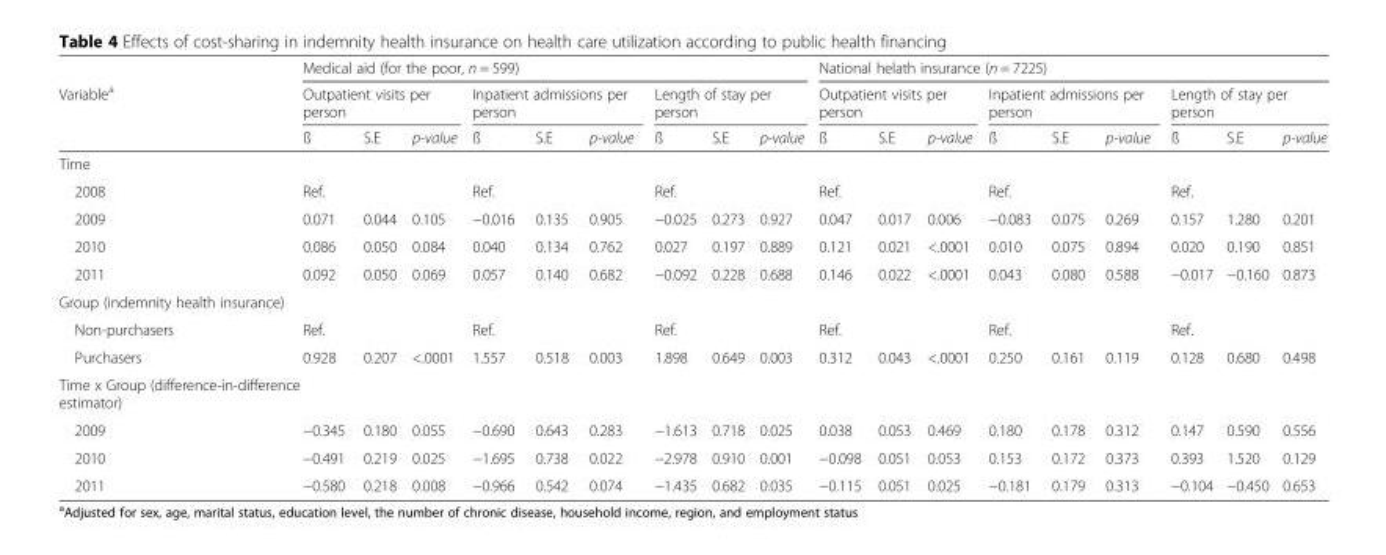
<table><thead><tr><td rowspan="3">Variable<sup>a</sup></td><td colspan="9">Medical aid (for the poor, n = 599)</td><td colspan="9">National helath insurance (n = 7225)</td></tr><tr><td colspan="3">Outpatient visits per person</td><td colspan="3">Inpatient admissions per person</td><td colspan="3">Length of stay per person</td><td colspan="3">Outpatient visits per person</td><td colspan="3">Inpatient admissions per person</td><td colspan="3">Length of stay per person</td></tr><tr><td>ß</td><td>S.E</td><td>p-value</td><td>ß</td><td>S.E</td><td>p-value</td><td>ß</td><td>S.E</td><td>p-value</td><td>ß</td><td>S.E</td><td>p-value</td><td>ß</td><td>S.E</td><td>p-value</td><td>ß</td><td>S.E</td><td>p-value</td></tr></thead><tbody><tr><td colspan="19">Time</td></tr><tr><td>2008</td><td>Ref.</td><td></td><td></td><td>Ref.</td><td></td><td></td><td>Ref.</td><td></td><td></td><td>Ref.</td><td></td><td></td><td>Ref.</td><td></td><td></td><td>Ref.</td><td></td><td></td></tr><tr><td>2009</td><td>0.071</td><td>0.044</td><td>0.105</td><td>−0.016</td><td>0.135</td><td>0.905</td><td>−0.025</td><td>0.273</td><td>0.927</td><td>0.047</td><td>0.017</td><td>0.006</td><td>−0.083</td><td>0.075</td><td>0.269</td><td>0.157</td><td>1.280</td><td>0.201</td></tr><tr><td>2010</td><td>0.086</td><td>0.050</td><td>0.084</td><td>0.040</td><td>0.134</td><td>0.762</td><td>0.027</td><td>0.197</td><td>0.889</td><td>0.121</td><td>0.021</td><td>&lt;.0001</td><td>0.010</td><td>0.075</td><td>0.894</td><td>0.020</td><td>0.190</td><td>0.851</td></tr><tr><td>2011</td><td>0.092</td><td>0.050</td><td>0.069</td><td>0.057</td><td>0.140</td><td>0.682</td><td>−0.092</td><td>0.228</td><td>0.688</td><td>0.146</td><td>0.022</td><td>&lt;.0001</td><td>0.043</td><td>0.080</td><td>0.588</td><td>−0.017</td><td>−0.160</td><td>0.873</td></tr><tr><td colspan="19">Group (indemnity health insurance)</td></tr><tr><td>Non-purchasers</td><td>Ref.</td><td></td><td></td><td>Ref.</td><td></td><td></td><td>Ref.</td><td></td><td></td><td>Ref.</td><td></td><td></td><td>Ref.</td><td></td><td></td><td>Ref.</td><td></td><td></td></tr><tr><td>Purchasers</td><td>0.928</td><td>0.207</td><td>&lt;.0001</td><td>1.557</td><td>0.518</td><td>0.003</td><td>1.898</td><td>0.649</td><td>0.003</td><td>0.312</td><td>0.043</td><td>&lt;.0001</td><td>0.250</td><td>0.161</td><td>0.119</td><td>0.128</td><td>0.680</td><td>0.498</td></tr><tr><td colspan="19">Time x Group (difference-in-difference estimator)</td></tr><tr><td>2009</td><td>−0.345</td><td>0.180</td><td>0.055</td><td>−0.690</td><td>0.643</td><td>0.283</td><td>−1.613</td><td>0.718</td><td>0.025</td><td>0.038</td><td>0.053</td><td>0.469</td><td>0.180</td><td>0.178</td><td>0.312</td><td>0.147</td><td>0.590</td><td>0.556</td></tr><tr><td>2010</td><td>−0.491</td><td>0.219</td><td>0.025</td><td>−1.695</td><td>0.738</td><td>0.022</td><td>−2.978</td><td>0.910</td><td>0.001</td><td>−0.098</td><td>0.051</td><td>0.053</td><td>0.153</td><td>0.172</td><td>0.373</td><td>0.393</td><td>1.520</td><td>0.129</td></tr><tr><td>2011</td><td>−0.580</td><td>0.218</td><td>0.008</td><td>−0.966</td><td>0.542</td><td>0.074</td><td>−1.435</td><td>0.682</td><td>0.035</td><td>−0.115</td><td>0.051</td><td>0.025</td><td>−0.181</td><td>0.179</td><td>0.313</td><td>−0.104</td><td>−0.450</td><td>0.653</td></tr></tbody></table>